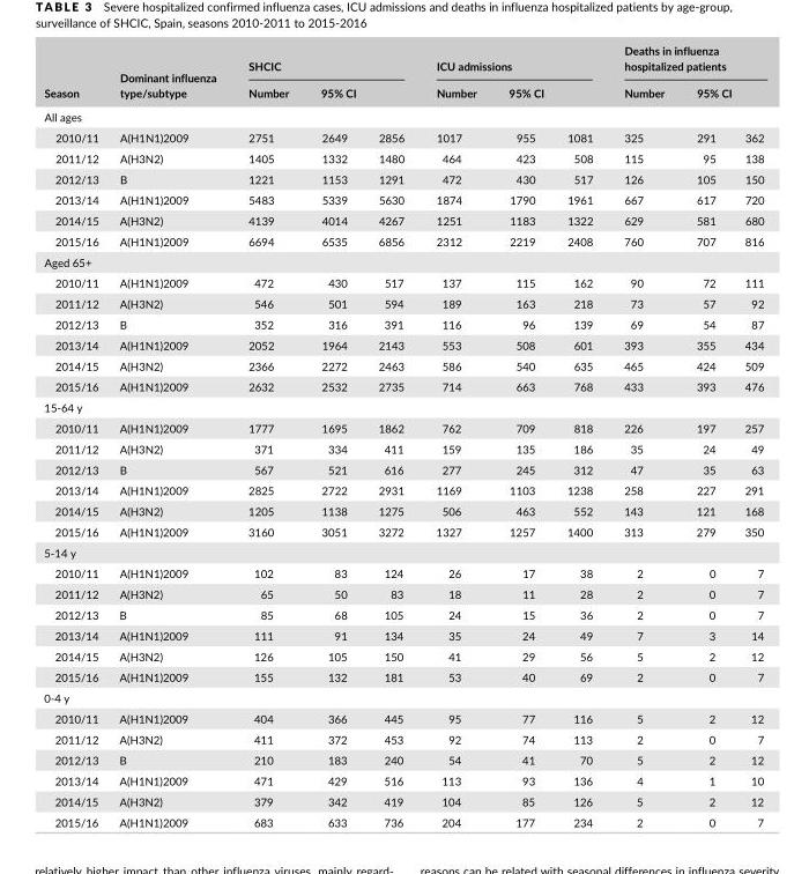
<table><thead><tr><td rowspan="2">Season</td><td rowspan="2">Dominant influenza type/subtype</td><td colspan="3">SHCIC</td><td colspan="3">ICU admissions</td><td colspan="3">Deaths in influenza hospitalized patients</td></tr><tr><td>Number</td><td colspan="2">95% CI</td><td>Number</td><td colspan="2">95% CI</td><td>Number</td><td colspan="2">95% CI</td></tr><tr><td colspan="11">All ages</td></tr><tr><td>2010/11</td><td>A(H1N1)2009</td><td>2751</td><td>2649</td><td>2856</td><td>1017</td><td>955</td><td>1081</td><td>325</td><td>291</td><td>362</td></tr></thead><tbody><tr><td>2011/12</td><td>A(H3N2)</td><td>1405</td><td>1332</td><td>1480</td><td>464</td><td>423</td><td>508</td><td>115</td><td>95</td><td>138</td></tr><tr><td>2012/13</td><td>B</td><td>1221</td><td>1153</td><td>1291</td><td>472</td><td>430</td><td>517</td><td>126</td><td>105</td><td>150</td></tr><tr><td>2013/14</td><td>A(H1N1)2009</td><td>5483</td><td>5339</td><td>5630</td><td>1874</td><td>1790</td><td>1961</td><td>667</td><td>617</td><td>720</td></tr><tr><td>2014/15</td><td>A(H3N2)</td><td>4139</td><td>4014</td><td>4267</td><td>1251</td><td>1183</td><td>1322</td><td>629</td><td>581</td><td>680</td></tr><tr><td>2015/16</td><td>A(H1N1)2009</td><td>6694</td><td>6535</td><td>6856</td><td>2312</td><td>2219</td><td>2408</td><td>760</td><td>707</td><td>816</td></tr><tr><td colspan="11">Aged 65+</td></tr><tr><td>2010/11</td><td>A(H1N1)2009</td><td>472</td><td>430</td><td>517</td><td>137</td><td>115</td><td>162</td><td>90</td><td>72</td><td>111</td></tr><tr><td>2011/12</td><td>A(H3N2)</td><td>546</td><td>501</td><td>594</td><td>189</td><td>163</td><td>218</td><td>73</td><td>57</td><td>92</td></tr><tr><td>2012/13</td><td>B</td><td>352</td><td>316</td><td>391</td><td>116</td><td>96</td><td>139</td><td>69</td><td>54</td><td>87</td></tr><tr><td>2013/14</td><td>A(H1N1)2009</td><td>2052</td><td>1964</td><td>2143</td><td>553</td><td>508</td><td>601</td><td>393</td><td>355</td><td>434</td></tr><tr><td>2014/15</td><td>A(H3N2)</td><td>2366</td><td>2272</td><td>2463</td><td>586</td><td>540</td><td>635</td><td>465</td><td>424</td><td>509</td></tr><tr><td>2015/16</td><td>A(H1N1)2009</td><td>2632</td><td>2532</td><td>2735</td><td>714</td><td>663</td><td>768</td><td>433</td><td>393</td><td>476</td></tr><tr><td colspan="11">15- 64 y</td></tr><tr><td>2010/11</td><td>A(H1N1)2009</td><td>1777</td><td>1695</td><td>1862</td><td>762</td><td>709</td><td>818</td><td>226</td><td>197</td><td>257</td></tr><tr><td>2011/12</td><td>A(H3N2)</td><td>371</td><td>334</td><td>411</td><td>159</td><td>135</td><td>186</td><td>35</td><td>24</td><td>49</td></tr><tr><td>2012/13</td><td>B</td><td>567</td><td>521</td><td>616</td><td>277</td><td>245</td><td>312</td><td>47</td><td>35</td><td>63</td></tr><tr><td>2013/14</td><td>A(H1N1)2009</td><td>2825</td><td>2722</td><td>2931</td><td>1169</td><td>1103</td><td>1238</td><td>258</td><td>227</td><td>291</td></tr><tr><td>2014/15</td><td>A(H3N2)</td><td>1205</td><td>1138</td><td>1275</td><td>506</td><td>463</td><td>552</td><td>143</td><td>121</td><td>168</td></tr><tr><td>2015/16</td><td>A(H1N1)2009</td><td>3160</td><td>3051</td><td>3272</td><td>1327</td><td>1257</td><td>1400</td><td>313</td><td>279</td><td>350</td></tr><tr><td colspan="11">5- 14 y</td></tr><tr><td>2010/11</td><td>A(H1N1)2009</td><td>102</td><td>83</td><td>124</td><td>26</td><td>17</td><td>38</td><td>2</td><td>0</td><td>7</td></tr><tr><td>2011/12</td><td>A(H3N2)</td><td>65</td><td>50</td><td>83</td><td>18</td><td>11</td><td>28</td><td>2</td><td>0</td><td>7</td></tr><tr><td>2012/13</td><td>B</td><td>85</td><td>68</td><td>105</td><td>24</td><td>15</td><td>36</td><td>2</td><td>0</td><td>7</td></tr><tr><td>2013/14</td><td>A(H1N1)2009</td><td>111</td><td>91</td><td>134</td><td>35</td><td>24</td><td>49</td><td>7</td><td>3</td><td>14</td></tr><tr><td>2014/15</td><td>A(H3N2)</td><td>126</td><td>105</td><td>150</td><td>41</td><td>29</td><td>56</td><td>5</td><td>2</td><td>12</td></tr><tr><td>2015/16</td><td>A(H1N1)2009</td><td>155</td><td>132</td><td>181</td><td>53</td><td>40</td><td>69</td><td>2</td><td>0</td><td>7</td></tr><tr><td colspan="11">0- 4 y</td></tr><tr><td>2010/11</td><td>A(H1N1)2009</td><td>404</td><td>366</td><td>445</td><td>95</td><td>77</td><td>116</td><td>5</td><td>2</td><td>12</td></tr><tr><td>2011/12</td><td>A(H3N2)</td><td>411</td><td>372</td><td>453</td><td>92</td><td>74</td><td>113</td><td>2</td><td>0</td><td>7</td></tr><tr><td>2012/13</td><td>B</td><td>210</td><td>183</td><td>240</td><td>54</td><td>41</td><td>70</td><td>5</td><td>2</td><td>12</td></tr><tr><td>2013/14</td><td>A(H1N1)2009</td><td>471</td><td>429</td><td>516</td><td>113</td><td>93</td><td>136</td><td>4</td><td>1</td><td>10</td></tr><tr><td>2014/15</td><td>A(H3N2)</td><td>379</td><td>342</td><td>419</td><td>104</td><td>85</td><td>126</td><td>5</td><td>2</td><td>12</td></tr><tr><td>2015/16</td><td>A(H1N1)2009</td><td>683</td><td>633</td><td>736</td><td>204</td><td>177</td><td>234</td><td>2</td><td>0</td><td>7</td></tr></tbody></table>